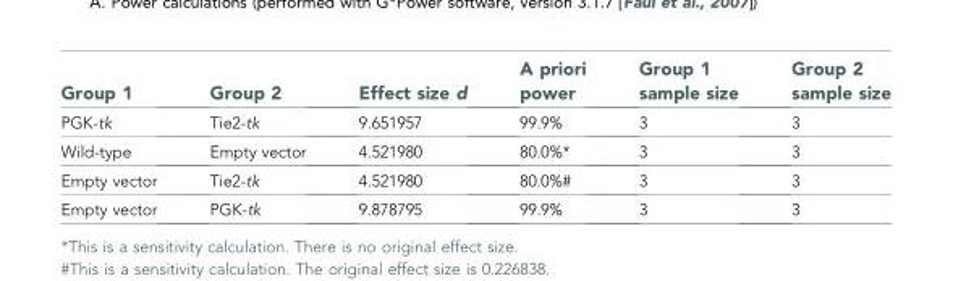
<table><thead><tr><td>Group 1</td><td>Group 2</td><td>Effect size d</td><td>A priori power</td><td>Group 1 sample size</td><td>Group 2 sample size</td></tr></thead><tbody><tr><td>PGK-tk</td><td>Tie2-tk</td><td>9.651957</td><td>99.9%</td><td>3</td><td>3</td></tr><tr><td>Wild-type</td><td>Empty vector</td><td>4.521980</td><td>80.0%*</td><td>3</td><td>3</td></tr><tr><td>Empty vector</td><td>Tie2-tk</td><td>4.521980</td><td>80.0%#</td><td>3</td><td>3</td></tr><tr><td>Empty vector</td><td>PGK-tk</td><td>9.878795</td><td>99.9%</td><td>3</td><td>3</td></tr></tbody></table>